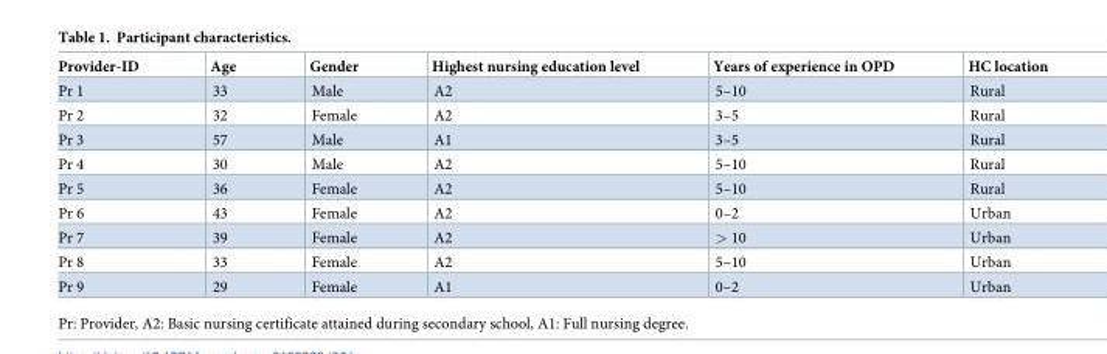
<table><thead><tr><td>Provider-ID</td><td>Age</td><td>Gender</td><td>Highest nursing education level</td><td>Years of experience in OPD</td><td>HC location</td></tr></thead><tbody><tr><td>Pr 1</td><td>33</td><td>Male</td><td>A2</td><td>5–10</td><td>Rural</td></tr><tr><td>Pr 2</td><td>32</td><td>Female</td><td>A2</td><td>3–5</td><td>Rural</td></tr><tr><td>Pr 3</td><td>57</td><td>Male</td><td>A1</td><td>3–5</td><td>Rural</td></tr><tr><td>Pr 4</td><td>30</td><td>Male</td><td>A2</td><td>5–10</td><td>Rural</td></tr><tr><td>Pr 5</td><td>36</td><td>Female</td><td>A2</td><td>5–10</td><td>Rural</td></tr><tr><td>Pr 6</td><td>43</td><td>Female</td><td>A2</td><td>0–2</td><td>Urban</td></tr><tr><td>Pr 7</td><td>39</td><td>Female</td><td>A2</td><td>&gt; 10</td><td>Urban</td></tr><tr><td>Pr 8</td><td>33</td><td>Female</td><td>A2</td><td>5–10</td><td>Urban</td></tr><tr><td>Pr 9</td><td>29</td><td>Female</td><td>A1</td><td>0–2</td><td>Urban</td></tr></tbody></table>